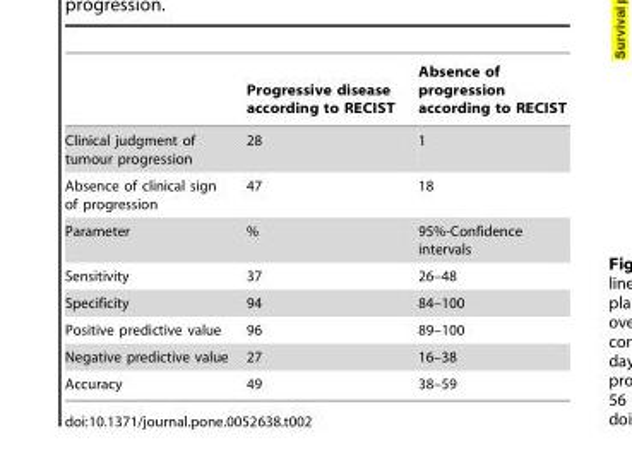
<table><thead><tr><td></td><td>Progressive disease according to RECIST</td><td>Absence of progression according to RECIST</td></tr></thead><tbody><tr><td>Clinical judgment of tumour progression</td><td>28</td><td>1</td></tr><tr><td>Absence of clinical sign of progression</td><td>47</td><td>18</td></tr><tr><td>Parameter</td><td>%</td><td>95%-Confidence intervals</td></tr><tr><td>Sensitivity</td><td>37</td><td>26–48</td></tr><tr><td>Specificity</td><td>94</td><td>84–100</td></tr><tr><td>Positive predictive value</td><td>96</td><td>89–100</td></tr><tr><td>Negative predictive value</td><td>27</td><td>16–38</td></tr><tr><td>Accuracy</td><td>49</td><td>38–59</td></tr></tbody></table>